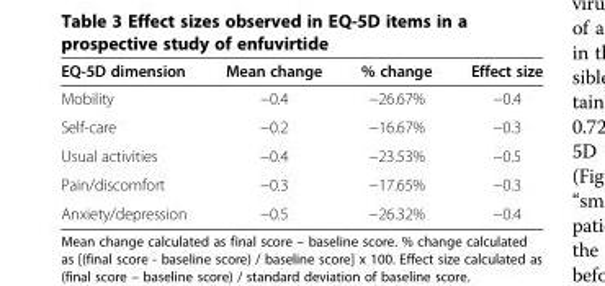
<table><thead><tr><td>EQ-5D dimension</td><td>Mean change</td><td>% change</td><td>Effect size</td></tr></thead><tbody><tr><td>Mobility</td><td>−0.4</td><td>−26.67%</td><td>−0.4</td></tr><tr><td>Self-care</td><td>−0.2</td><td>−16.67%</td><td>−0.3</td></tr><tr><td>Usual activities</td><td>−0.4</td><td>−23.53%</td><td>−0.5</td></tr><tr><td>Pain/discomfort</td><td>−0.3</td><td>−17.65%</td><td>−0.3</td></tr><tr><td>Anxiety/depression</td><td>−0.5</td><td>−26.32%</td><td>−0.4</td></tr></tbody></table>